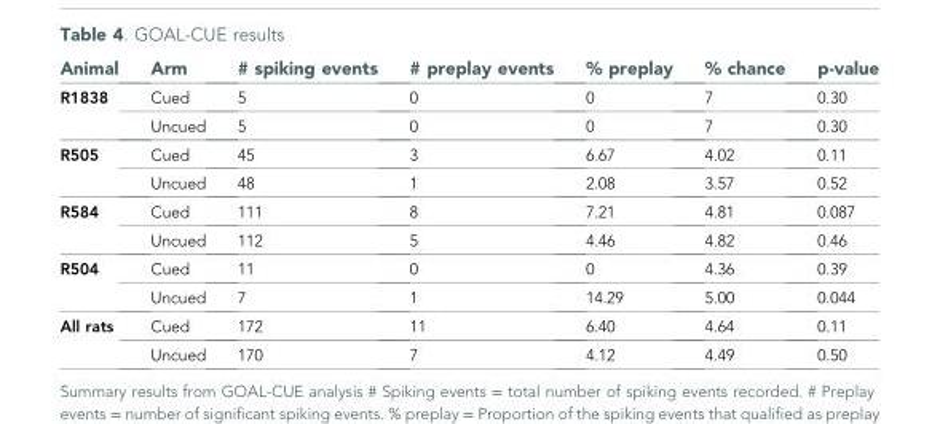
<table><thead><tr><td>Animal</td><td>Arm</td><td># spiking events</td><td># preplay events</td><td>% preplay</td><td>% chance</td><td>p-value</td></tr></thead><tbody><tr><td rowspan="2">R1838</td><td>Cued</td><td>5</td><td>0</td><td>0</td><td>7</td><td>0.30</td></tr><tr><td>Uncued</td><td>5</td><td>0</td><td>0</td><td>7</td><td>0.30</td></tr><tr><td rowspan="2">R505</td><td>Cued</td><td>45</td><td>3</td><td>6.67</td><td>4.02</td><td>0.11</td></tr><tr><td>Uncued</td><td>48</td><td>1</td><td>2.08</td><td>3.57</td><td>0.52</td></tr><tr><td rowspan="2">R584</td><td>Cued</td><td>111</td><td>8</td><td>7.21</td><td>4.81</td><td>0.087</td></tr><tr><td>Uncued</td><td>112</td><td>5</td><td>4.46</td><td>4.82</td><td>0.46</td></tr><tr><td rowspan="2">R504</td><td>Cued</td><td>11</td><td>0</td><td>0</td><td>4.36</td><td>0.39</td></tr><tr><td>Uncued</td><td>7</td><td>1</td><td>14.29</td><td>5.00</td><td>0.044</td></tr><tr><td rowspan="2">All rats</td><td>Cued</td><td>172</td><td>11</td><td>6.40</td><td>4.64</td><td>0.11</td></tr><tr><td>Uncued</td><td>170</td><td>7</td><td>4.12</td><td>4.49</td><td>0.50</td></tr></tbody></table>